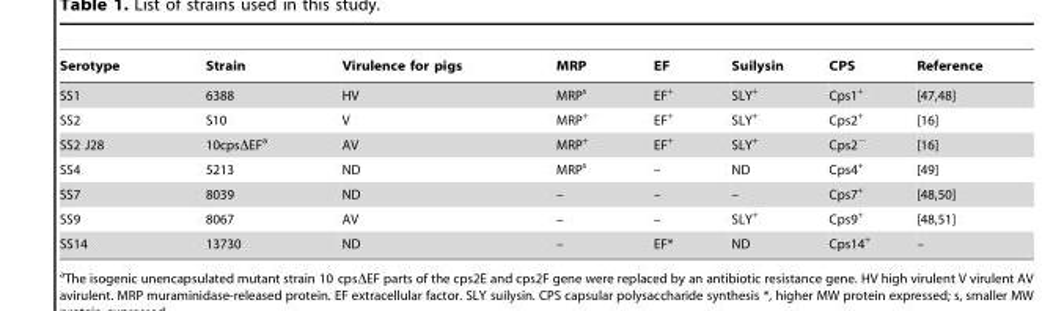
<table><thead><tr><td>Serotype</td><td>Strain</td><td>Virulence for pigs</td><td>MRP</td><td>EF</td><td>Suilysin</td><td>CPS</td><td>Reference</td></tr></thead><tbody><tr><td>SS1</td><td>6388</td><td>HV</td><td>MRP<sup>s</sup></td><td>EF<sup>+</sup></td><td>SLY<sup>+</sup></td><td>Cps1<sup>+</sup></td><td>[47,48]</td></tr><tr><td>SS2</td><td>S10</td><td>V</td><td>MRP<sup>+</sup></td><td>EF<sup>+</sup></td><td>SLY<sup>+</sup></td><td>Cps2<sup>+</sup></td><td>[16]</td></tr><tr><td>SS2 J28</td><td>10cpsΔEF<sup>a</sup></td><td>AV</td><td>MRP<sup>+</sup></td><td>EF<sup>+</sup></td><td>SLY<sup>+</sup></td><td>Cps2<sup>−</sup></td><td>[16]</td></tr><tr><td>SS4</td><td>5213</td><td>ND</td><td>MRP<sup>s</sup></td><td>–</td><td>ND</td><td>Cps4<sup>+</sup></td><td>[49]</td></tr><tr><td>SS7</td><td>8039</td><td>ND</td><td>–</td><td>–</td><td>–</td><td>Cps7<sup>+</sup></td><td>[48,50]</td></tr><tr><td>SS9</td><td>8067</td><td>AV</td><td>–</td><td>–</td><td>SLY<sup>+</sup></td><td>Cps9<sup>+</sup></td><td>[48,51]</td></tr><tr><td>SS14</td><td>13730</td><td>ND</td><td>–</td><td>EF*</td><td>ND</td><td>Cps14<sup>+</sup></td><td>–</td></tr></tbody></table>